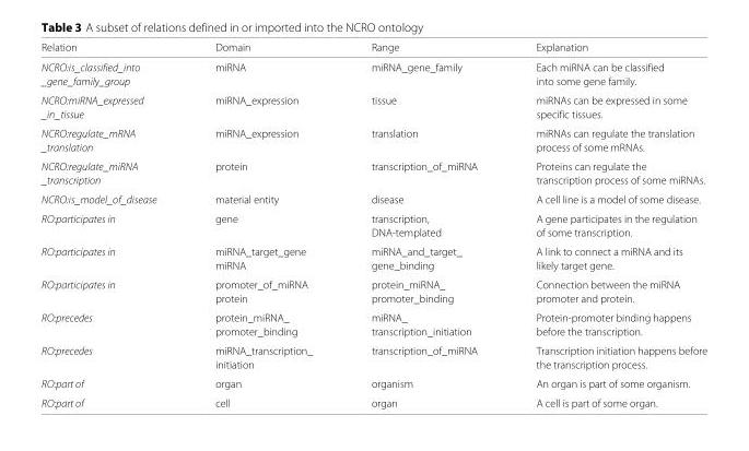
<table><thead><tr><td>Relation</td><td>Domain</td><td>Range</td><td>Explanation</td></tr></thead><tbody><tr><td>NCRO:is_classified_into</td><td>miRNA</td><td>miRNA_gene_family</td><td>Each miRNA can be classified</td></tr><tr><td>_gene_family_group</td><td></td><td></td><td>into some gene family.</td></tr><tr><td>NCRO:miRNA_expressed</td><td>miRNA_expression</td><td>tissue</td><td>miRNAs can be expressed in some</td></tr><tr><td>_in_tissue</td><td></td><td></td><td>specific tissues.</td></tr><tr><td>NCRO:regulate_mRNA</td><td>miRNA_expression</td><td>translation</td><td>miRNAs can regulate the translation</td></tr><tr><td>_translation</td><td></td><td></td><td>process of some mRNAs.</td></tr><tr><td>NCRO:regulate_miRNA</td><td>protein</td><td>transcription_of_miRNA</td><td>Proteins can regulate the</td></tr><tr><td>_transcription</td><td></td><td></td><td>transcription process of some miRNAs.</td></tr><tr><td>NCRO:is_model_of_disease</td><td>material entity</td><td>disease</td><td>A cell line is a model of some disease.</td></tr><tr><td rowspan="2">RO:participates in</td><td>gene</td><td>transcription,</td><td>A gene participates in the regulation</td></tr><tr><td></td><td>DNA-templated</td><td>of some transcription.</td></tr><tr><td rowspan="2">RO:participates in</td><td>miRNA_target_gene</td><td>miRNA_and_target_</td><td>A link to connect a miRNA and its</td></tr><tr><td>miRNA</td><td>gene_binding</td><td>likely target gene.</td></tr><tr><td rowspan="2">RO:participates in</td><td>promoter_of_miRNA</td><td>protein_miRNA_</td><td>Connection between the miRNA</td></tr><tr><td>protein</td><td>promoter_binding</td><td>promoter and protein.</td></tr><tr><td rowspan="2">RO:precedes</td><td>protein_miRNA_</td><td>miRNA_</td><td>Protein-promoter binding happens</td></tr><tr><td>promoter_binding</td><td>transcription_initiation</td><td>before the transcription.</td></tr><tr><td rowspan="2">RO:precedes</td><td>miRNA_transcription_</td><td>transcription_of_miRNA</td><td>Transcription initiation happens before</td></tr><tr><td>initiation</td><td></td><td>the transcription process.</td></tr><tr><td>RO:part of</td><td>organ</td><td>organism</td><td>An organ is part of some organism.</td></tr><tr><td>RO:part of</td><td>cell</td><td>organ</td><td>A cell is part of some organ.</td></tr></tbody></table>